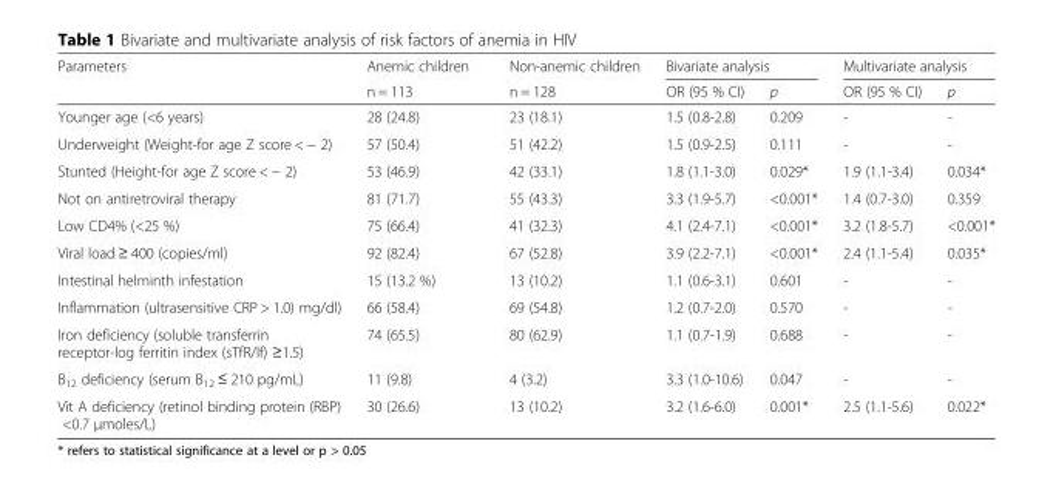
<table><thead><tr><td rowspan="2">Parameters</td><td rowspan="2">Anemic children n = 113</td><td rowspan="2">Non-anemic children n = 128</td><td colspan="2">Bivariate analysis</td><td colspan="2">Multivariate analysis</td></tr><tr><td>OR (95 % CI)</td><td>p</td><td>OR (95 % CI)</td><td>p</td></tr></thead><tbody><tr><td>Younger age (&lt;6 years)</td><td>28 (24.8)</td><td>23 (18.1)</td><td>1.5 (0.8-2.8)</td><td>0.209</td><td>-</td><td>-</td></tr><tr><td>Underweight (Weight-for age Z score &lt; − 2)</td><td>57 (50.4)</td><td>51 (42.2)</td><td>1.5 (0.9-2.5)</td><td>0.111</td><td>-</td><td>-</td></tr><tr><td>Stunted (Height-for age Z score &lt; − 2)</td><td>53 (46.9)</td><td>42 (33.1)</td><td>1.8 (1.1-3.0)</td><td>0.029*</td><td>1.9 (1.1-3.4)</td><td>0.034*</td></tr><tr><td>Not on antiretroviral therapy</td><td>81 (71.7)</td><td>55 (43.3)</td><td>3.3 (1.9-5.7)</td><td>&lt;0.001*</td><td>1.4 (0.7-3.0)</td><td>0.359</td></tr><tr><td>Low CD4% (&lt;25 %)</td><td>75 (66.4)</td><td>41 (32.3)</td><td>4.1 (2.4-7.1)</td><td>&lt;0.001*</td><td>3.2 (1.8-5.7)</td><td>&lt;0.001*</td></tr><tr><td>Viral load ≥ 400 (copies/ml)</td><td>92 (82.4)</td><td>67 (52.8)</td><td>3.9 (2.2-7.1)</td><td>&lt;0.001*</td><td>2.4 (1.1-5.4)</td><td>0.035*</td></tr><tr><td>Intestinal helminth infestation</td><td>15 (13.2 %)</td><td>13 (10.2)</td><td>1.1 (0.6-3.1)</td><td>0.601</td><td>-</td><td>-</td></tr><tr><td>Inflammation (ultrasensitive CRP &gt; 1.0) mg/dl)</td><td>66 (58.4)</td><td>69 (54.8)</td><td>1.2 (0.7-2.0)</td><td>0.570</td><td>-</td><td>-</td></tr><tr><td>Iron deficiency (soluble transferrin receptor-log ferritin index (sTfR/lf) ≥1.5)</td><td>74 (65.5)</td><td>80 (62.9)</td><td>1.1 (0.7-1.9)</td><td>0.688</td><td>-</td><td>-</td></tr><tr><td>B<sub>12</sub> deficiency (serum B<sub>12</sub> ≤ 210 pg/mL)</td><td>11 (9.8)</td><td>4 (3.2)</td><td>3.3 (1.0-10.6)</td><td>0.047</td><td>-</td><td>-</td></tr><tr><td>Vit A deficiency (retinol binding protein (RBP) &lt;0.7 μmoles/L)</td><td>30 (26.6)</td><td>13 (10.2)</td><td>3.2 (1.6-6.0)</td><td>0.001*</td><td>2.5 (1.1-5.6)</td><td>0.022*</td></tr></tbody></table>